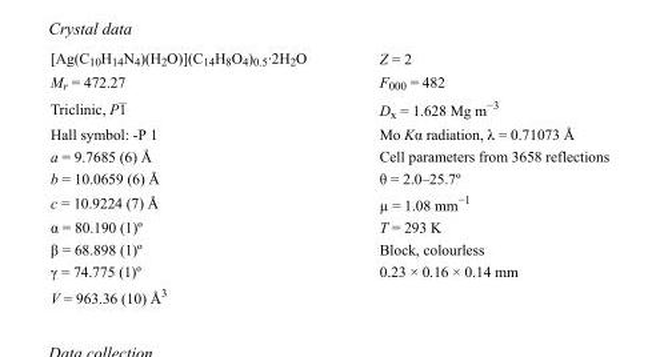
<table><tbody><tr><td>[Ag(C<sub>10</sub>H<sub>14</sub>N<sub>4</sub>)(H<sub>2</sub>O)](C<sub>14</sub>H<sub>8</sub>O<sub>4</sub>)<sub>0.5</sub>·2H<sub>2</sub>O</td><td>Z = 2</td></tr><tr><td>M<sub>r</sub> = 472.27</td><td>F000 = 482</td></tr><tr><td>Triclinic, P1</td><td>D<sub>x</sub> = 1.628 Mg m<sup>−3</sup></td></tr><tr><td>Hall symbol: -P 1</td><td>Mo Kα radiation, λ = 0.71073 Å</td></tr><tr><td>a = 9.7685 (6) Å</td><td>Cell parameters from 3658 reflections</td></tr><tr><td>b = 10.0659 (6) Å</td><td>θ = 2.0–25.7º</td></tr><tr><td>c = 10.9224 (7) Å</td><td>µ = 1.08 mm<sup>−1</sup></td></tr><tr><td>α = 80.190 (1)º</td><td>T = 293 K</td></tr><tr><td>β = 68.898 (1)º</td><td>Block, colourless</td></tr><tr><td>γ = 74.775 (1)º</td><td>0.23 × 0.16 × 0.14 mm</td></tr><tr><td>V = 963.36 (10) Å<sup>3</sup></td><td></td></tr></tbody></table>